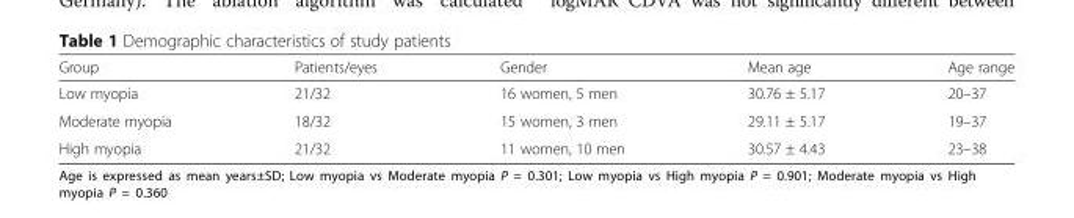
<table><thead><tr><td>Group</td><td>Patients/eyes</td><td>Gender</td><td>Mean age</td><td>Age range</td></tr></thead><tbody><tr><td>Low myopia</td><td>21/32</td><td>16 women, 5 men</td><td>30.76 ± 5.17</td><td>20–37</td></tr><tr><td>Moderate myopia</td><td>18/32</td><td>15 women, 3 men</td><td>29.11 ± 5.17</td><td>19–37</td></tr><tr><td>High myopia</td><td>21/32</td><td>11 women, 10 men</td><td>30.57 ± 4.43</td><td>23–38</td></tr></tbody></table>